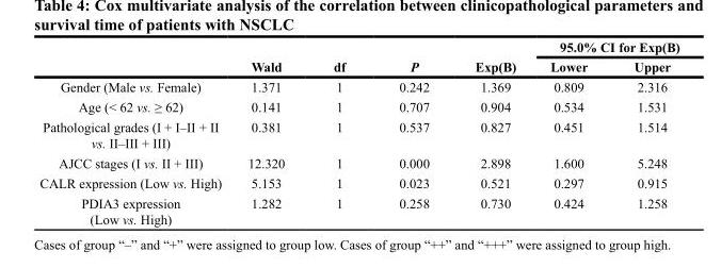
<table><thead><tr><td rowspan="2"></td><td rowspan="2">Wald</td><td rowspan="2">df</td><td rowspan="2">P</td><td rowspan="2">Exp(B)</td><td colspan="2">95.0% CI for Exp(B)</td></tr><tr><td>Lower</td><td>Upper</td></tr></thead><tbody><tr><td>Gender (Male vs. Female)</td><td>1.371</td><td>1</td><td>0.242</td><td>1.369</td><td>0.809</td><td>2.316</td></tr><tr><td>Age (&lt; 62 vs. ≥ 62)</td><td>0.141</td><td>1</td><td>0.707</td><td>0.904</td><td>0.534</td><td>1.531</td></tr><tr><td>Pathological grades (I + I–II + II vs. II–III + III)</td><td>0.381</td><td>1</td><td>0.537</td><td>0.827</td><td>0.451</td><td>1.514</td></tr><tr><td>AJCC stages (I vs. II + III)</td><td>12.320</td><td>1</td><td>0.000</td><td>2.898</td><td>1.600</td><td>5.248</td></tr><tr><td>CALR expression (Low vs. High)</td><td>5.153</td><td>1</td><td>0.023</td><td>0.521</td><td>0.297</td><td>0.915</td></tr><tr><td>PDIA3 expression (Low vs. High)</td><td>1.282</td><td>1</td><td>0.258</td><td>0.730</td><td>0.424</td><td>1.258</td></tr></tbody></table>